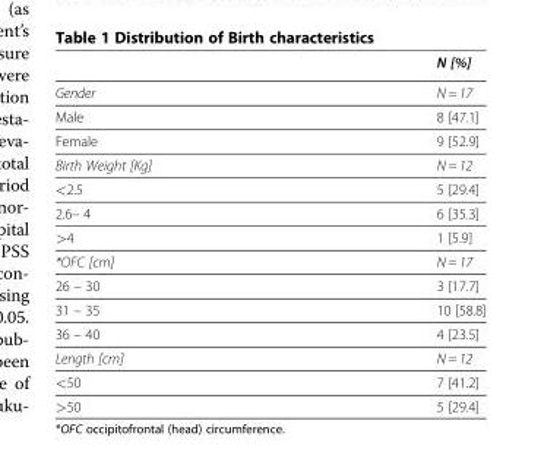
<table><thead><tr><td></td><td>N [%]</td></tr></thead><tbody><tr><td>Gender</td><td>N = 17</td></tr><tr><td>Male</td><td>8 [47.1]</td></tr><tr><td>Female</td><td>9 [52.9]</td></tr><tr><td>Birth Weight [Kg]</td><td>N = 12</td></tr><tr><td>&lt;2.5</td><td>5 [29.4]</td></tr><tr><td>2.6– 4</td><td>6 [35.3]</td></tr><tr><td>&gt;4</td><td>1 [5.9]</td></tr><tr><td>*OFC [cm]</td><td>N = 17</td></tr><tr><td>26 – 30</td><td>3 [17.7]</td></tr><tr><td>31 – 35</td><td>10 [58.8]</td></tr><tr><td>36 – 40</td><td>4 [23.5]</td></tr><tr><td>Length [cm]</td><td>N = 12</td></tr><tr><td>&lt;50</td><td>7 [41.2]</td></tr><tr><td>&gt;50</td><td>5 [29.4]</td></tr></tbody></table>